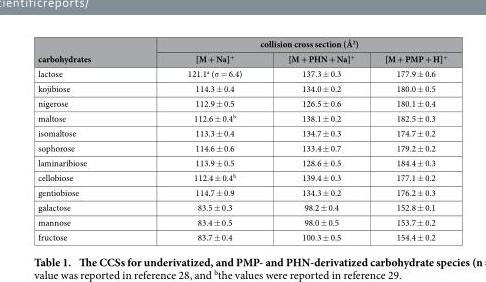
<table><thead><tr><td rowspan="2">carbohydrates</td><td colspan="3">collision cross section (Å<sup>2</sup>)</td></tr><tr><td>[M + Na]<sup>+</sup></td><td>[M + PHN + Na]<sup>+</sup></td><td>[M + PMP + H]<sup>+</sup></td></tr></thead><tbody><tr><td>lactose</td><td>121.1a (σ = 6.4)</td><td>137.3 ± 0.3</td><td>177.9 ± 0.6</td></tr><tr><td>kojibiose</td><td>114.3 ± 0.4</td><td>134.0 ± 0.2</td><td>180.0 ± 0.5</td></tr><tr><td>nigerose</td><td>112.9 ± 0.5</td><td>126.5 ± 0.6</td><td>180.1 ± 0.4</td></tr><tr><td>maltose</td><td>112.6 ± 0.4<sup>b</sup></td><td>138.1 ± 0.2</td><td>182.5 ± 0.3</td></tr><tr><td>isomaltose</td><td>113.3 ± 0.4</td><td>134.7 ± 0.3</td><td>174.7 ± 0.2</td></tr><tr><td>sophorose</td><td>114.6 ± 0.6</td><td>133.4 ± 0.7</td><td>179.2 ± 0.2</td></tr><tr><td>laminaribiose</td><td>113.9 ± 0.5</td><td>128.6 ± 0.5</td><td>184.4 ± 0.3</td></tr><tr><td>cellobiose</td><td>112.4 ± 0.4<sup>b</sup></td><td>139.4 ± 0.3</td><td>177.1 ± 0.2</td></tr><tr><td>gentiobiose</td><td>114.7 ± 0.9</td><td>134.3 ± 0.2</td><td>176.2 ± 0.3</td></tr><tr><td>galactose</td><td>83.5 ± 0.3</td><td>98.2 ± 0.4</td><td>152.8 ± 0.1</td></tr><tr><td>mannose</td><td>83.4 ± 0.5</td><td>98.0 ± 0.5</td><td>153.7 ± 0.2</td></tr><tr><td>fructose</td><td>83.7 ± 0.4</td><td>100.3 ± 0.5</td><td>154.4 ± 0.2</td></tr></tbody></table>